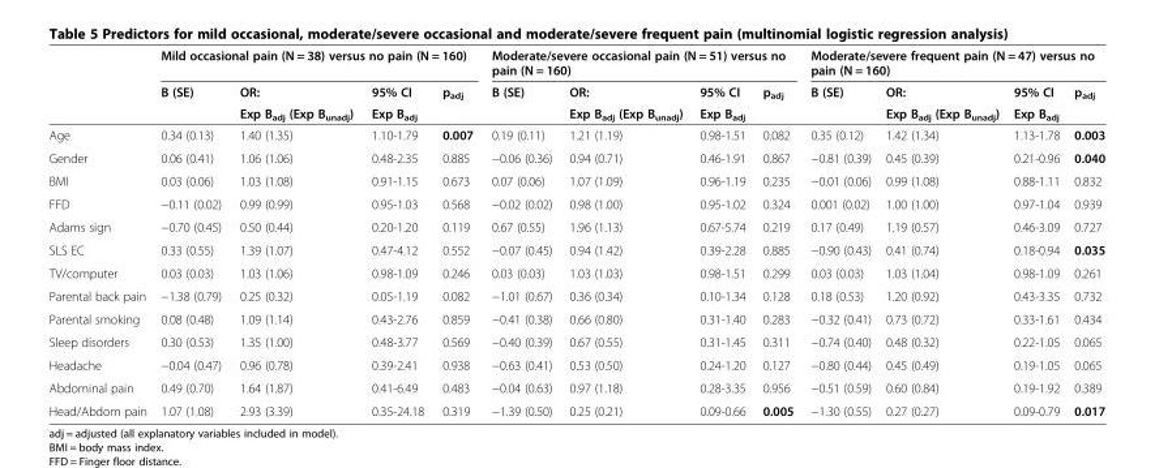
<table><thead><tr><td rowspan="3"></td><td colspan="4">Mild occasional pain (N = 38) versus no pain (N = 160)</td><td colspan="4">Moderate/severe occasional pain (N = 51) versus no pain (N = 160)</td><td colspan="4">Moderate/severe frequent pain (N = 47) versus no pain (N = 160)</td></tr><tr><td rowspan="2">B (SE)</td><td rowspan="2">OR: Exp B<sub>adj</sub> (Exp B<sub>unadj</sub>)</td><td rowspan="2">95% CI Exp B<sub>adj</sub></td><td rowspan="2">p<sub>adj</sub></td><td rowspan="2">B (SE)</td><td rowspan="2">OR: Exp B<sub>adj</sub> (Exp B<sub>unadj</sub>)</td><td rowspan="2">95% CI Exp B<sub>adj</sub></td><td rowspan="2">p<sub>adj</sub></td><td rowspan="2">B (SE)</td><td rowspan="2">OR: Exp B<sub>adj</sub> (Exp B<sub>unadj</sub>)</td><td rowspan="2">95% CI Exp B<sub>adj</sub></td><td rowspan="2">p<sub>adj</sub></td></tr><tr></tr></thead><tbody><tr><td>Age</td><td>0.34 (0.13)</td><td>1.40 (1.35)</td><td>1.10-1.79</td><td>0.007</td><td>0.19 (0.11)</td><td>1.21 (1.19)</td><td>0.98-1.51</td><td>0.082</td><td>0.35 (0.12)</td><td>1.42 (1.34)</td><td>1.13-1.78</td><td>0.003</td></tr><tr><td>Gender</td><td>0.06 (0.41)</td><td>1.06 (1.06)</td><td>0.48-2.35</td><td>0.885</td><td>−0.06 (0.36)</td><td>0.94 (0.71)</td><td>0.46-1.91</td><td>0.867</td><td>−0.81 (0.39)</td><td>0.45 (0.39)</td><td>0.21-0.96</td><td>0.040</td></tr><tr><td>BMI</td><td>0.03 (0.06)</td><td>1.03 (1.08)</td><td>0.91-1.15</td><td>0.673</td><td>0.07 (0.06)</td><td>1.07 (1.09)</td><td>0.96-1.19</td><td>0.235</td><td>−0.01 (0.06)</td><td>0.99 (1.08)</td><td>0.88-1.11</td><td>0.832</td></tr><tr><td>FFD</td><td>−0.11 (0.02)</td><td>0.99 (0.99)</td><td>0.95-1.03</td><td>0.568</td><td>−0.02 (0.02)</td><td>0.98 (1.00)</td><td>0.95-1.02</td><td>0.324</td><td>0.001 (0.02)</td><td>1.00 (1.00)</td><td>0.97-1.04</td><td>0.939</td></tr><tr><td>Adams sign</td><td>−0.70 (0.45)</td><td>0.50 (0.44)</td><td>0.20-1.20</td><td>0.119</td><td>0.67 (0.55)</td><td>1.96 (1.13)</td><td>0.67-5.74</td><td>0.219</td><td>0.17 (0.49)</td><td>1.19 (0.57)</td><td>0.46-3.09</td><td>0.727</td></tr><tr><td>SLS EC</td><td>0.33 (0.55)</td><td>1.39 (1.07)</td><td>0.47-4.12</td><td>0.552</td><td>−0.07 (0.45)</td><td>0.94 (1.42)</td><td>0.39-2.28</td><td>0.885</td><td>−0.90 (0.43)</td><td>0.41 (0.74)</td><td>0.18-0.94</td><td>0.035</td></tr><tr><td>TV/computer</td><td>0.03 (0.03)</td><td>1.03 (1.06)</td><td>0.98-1.09</td><td>0.246</td><td>0.03 (0.03)</td><td>1.03 (1.03)</td><td>0.98-1.51</td><td>0.299</td><td>0.03 (0.03)</td><td>1.03 (1.04)</td><td>0.98-1.09</td><td>0.261</td></tr><tr><td>Parental back pain</td><td>−1.38 (0.79)</td><td>0.25 (0.32)</td><td>0.05-1.19</td><td>0.082</td><td>−1.01 (0.67)</td><td>0.36 (0.34)</td><td>0.10-1.34</td><td>0.128</td><td>0.18 (0.53)</td><td>1.20 (0.92)</td><td>0.43-3.35</td><td>0.732</td></tr><tr><td>Parental smoking</td><td>0.08 (0.48)</td><td>1.09 (1.14)</td><td>0.43-2.76</td><td>0.859</td><td>−0.41 (0.38)</td><td>0.66 (0.80)</td><td>0.31-1.40</td><td>0.283</td><td>−0.32 (0.41)</td><td>0.73 (0.72)</td><td>0.33-1.61</td><td>0.434</td></tr><tr><td>Sleep disorders</td><td>0.30 (0.53)</td><td>1.35 (1.00)</td><td>0.48-3.77</td><td>0.569</td><td>−0.40 (0.39)</td><td>0.67 (0.55)</td><td>0.31-1.45</td><td>0.311</td><td>−0.74 (0.40)</td><td>0.48 (0.32)</td><td>0.22-1.05</td><td>0.065</td></tr><tr><td>Headache</td><td>−0.04 (0.47)</td><td>0.96 (0.78)</td><td>0.39-2.41</td><td>0.938</td><td>−0.63 (0.41)</td><td>0.53 (0.50)</td><td>0.24-1.20</td><td>0.127</td><td>−0.80 (0.44)</td><td>0.45 (0.49)</td><td>0.19-1.05</td><td>0.065</td></tr><tr><td>Abdominal pain</td><td>0.49 (0.70)</td><td>1.64 (1.87)</td><td>0.41-6.49</td><td>0.483</td><td>−0.04 (0.63)</td><td>0.97 (1.18)</td><td>0.28-3.35</td><td>0.956</td><td>−0.51 (0.59)</td><td>0.60 (0.84)</td><td>0.19-1.92</td><td>0.389</td></tr><tr><td>Head/Abdom pain</td><td>1.07 (1.08)</td><td>2.93 (3.39)</td><td>0.35-24.18</td><td>0.319</td><td>−1.39 (0.50)</td><td>0.25 (0.21)</td><td>0.09-0.66</td><td>0.005</td><td>−1.30 (0.55)</td><td>0.27 (0.27)</td><td>0.09-0.79</td><td>0.017</td></tr></tbody></table>